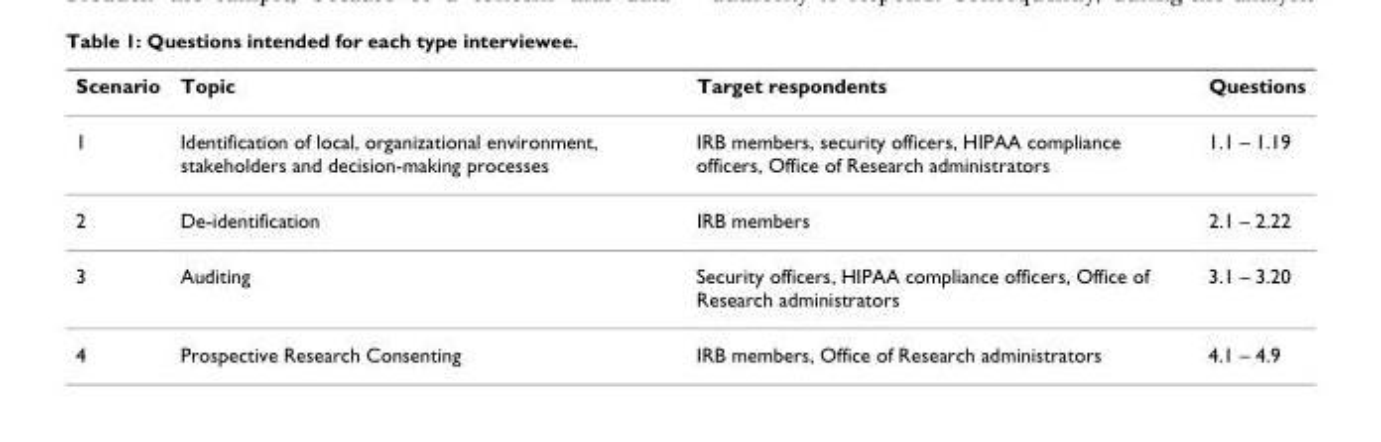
<table><thead><tr><td>Scenario</td><td>Topic</td><td>Target respondents</td><td>Questions</td></tr></thead><tbody><tr><td>1</td><td>Identification of local, organizational environment, stakeholders and decision-making processes</td><td>IRB members, security officers, HIPAA compliance officers, Office of Research administrators</td><td>1.1 – 1.19</td></tr><tr><td>2</td><td>De-identification</td><td>IRB members</td><td>2.1 – 2.22</td></tr><tr><td>3</td><td>Auditing</td><td>Security officers, HIPAA compliance officers, Office of Research administrators</td><td>3.1 – 3.20</td></tr><tr><td>4</td><td>Prospective Research Consenting</td><td>IRB members, Office of Research administrators</td><td>4.1 – 4.9</td></tr></tbody></table>